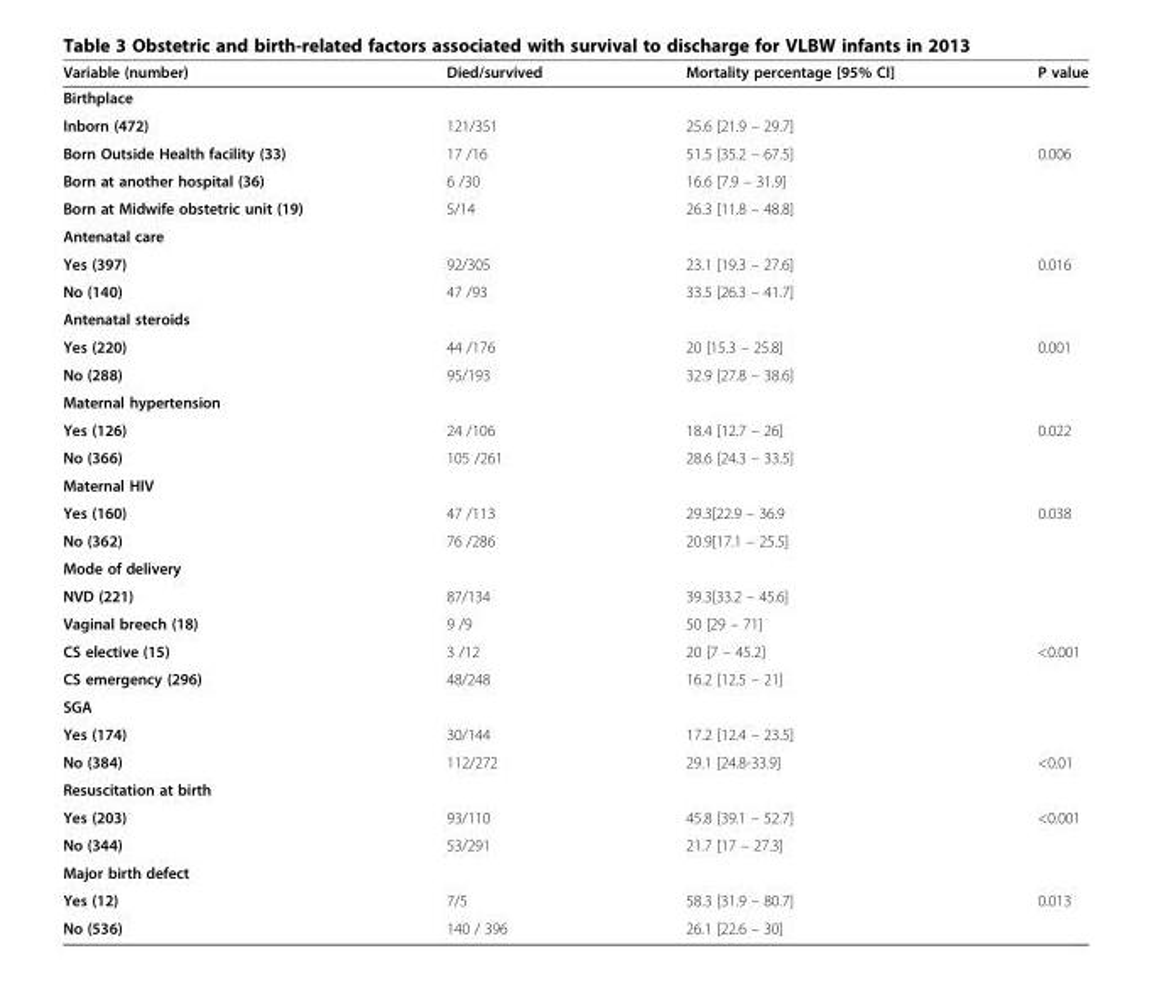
<table><thead><tr><td>Variable (number)</td><td>Died/survived</td><td>Mortality percentage [95% CI]</td><td>P value</td></tr></thead><tbody><tr><td colspan="4">Birthplace</td></tr><tr><td>Inborn (472)</td><td>121/351</td><td>25.6 [21.9 – 29.7]</td><td></td></tr><tr><td>Born Outside Health facility (33)</td><td>17 /16</td><td>51.5 [35.2 – 67.5]</td><td>0.006</td></tr><tr><td>Born at another hospital (36)</td><td>6 /30</td><td>16.6 [7.9 – 31.9]</td><td></td></tr><tr><td>Born at Midwife obstetric unit (19)</td><td>5/14</td><td>26.3 [11.8 – 48.8]</td><td></td></tr><tr><td colspan="4">Antenatal care</td></tr><tr><td>Yes (397)</td><td>92/305</td><td>23.1 [19.3 – 27.6]</td><td>0.016</td></tr><tr><td>No (140)</td><td>47 /93</td><td>33.5 [26.3 – 41.7]</td><td></td></tr><tr><td colspan="4">Antenatal steroids</td></tr><tr><td>Yes (220)</td><td>44 /176</td><td>20 [15.3 – 25.8]</td><td>0.001</td></tr><tr><td>No (288)</td><td>95/193</td><td>32.9 [27.8 – 38.6]</td><td></td></tr><tr><td colspan="4">Maternal hypertension</td></tr><tr><td>Yes (126)</td><td>24 /106</td><td>18.4 [12.7 – 26]</td><td>0.022</td></tr><tr><td>No (366)</td><td>105 /261</td><td>28.6 [24.3 – 33.5]</td><td></td></tr><tr><td colspan="4">Maternal HIV</td></tr><tr><td>Yes (160)</td><td>47 /113</td><td>29.3[22.9 – 36.9</td><td>0.038</td></tr><tr><td>No (362)</td><td>76 /286</td><td>20.9[17.1 – 25.5]</td><td></td></tr><tr><td colspan="4">Mode of delivery</td></tr><tr><td>NVD (221)</td><td>87/134</td><td>39.3[33.2 – 45.6]</td><td></td></tr><tr><td>Vaginal breech (18)</td><td>9 /9</td><td>50 [29 – 71]</td><td></td></tr><tr><td>CS elective (15)</td><td>3 /12</td><td>20 [7 – 45.2]</td><td>&lt;0.001</td></tr><tr><td>CS emergency (296)</td><td>48/248</td><td>16.2 [12.5 – 21]</td><td></td></tr><tr><td colspan="4">SGA</td></tr><tr><td>Yes (174)</td><td>30/144</td><td>17.2 [12.4 – 23.5]</td><td></td></tr><tr><td>No (384)</td><td>112/272</td><td>29.1 [24.8-33.9]</td><td>&lt;0.01</td></tr><tr><td colspan="4">Resuscitation at birth</td></tr><tr><td>Yes (203)</td><td>93/110</td><td>45.8 [39.1 – 52.7]</td><td>&lt;0.001</td></tr><tr><td>No (344)</td><td>53/291</td><td>21.7 [17 – 27.3]</td><td></td></tr><tr><td colspan="4">Major birth defect</td></tr><tr><td>Yes (12)</td><td>7/5</td><td>58.3 [31.9 – 80.7]</td><td>0.013</td></tr><tr><td>No (536)</td><td>140 / 396</td><td>26.1 [22.6 – 30]</td><td></td></tr></tbody></table>